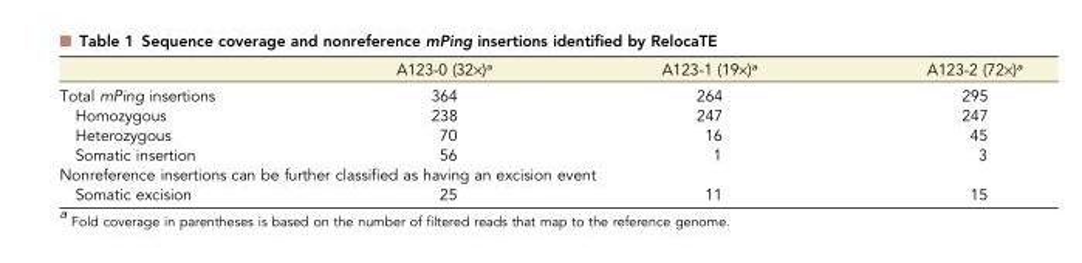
<table><thead><tr><td></td><td>A123-0 (32×)<sup>a</sup></td><td>A123-1 (19×)<sup>a</sup></td><td>A123-2 (72×)<sup>a</sup></td></tr></thead><tbody><tr><td>Total mPing insertions</td><td>364</td><td>264</td><td>295</td></tr><tr><td>Homozygous</td><td>238</td><td>247</td><td>247</td></tr><tr><td>Heterozygous</td><td>70</td><td>16</td><td>45</td></tr><tr><td>Somatic insertion</td><td>56</td><td>1</td><td>3</td></tr><tr><td colspan="4">Nonreference insertions can be further classified as having an excision event</td></tr><tr><td>Somatic excision</td><td>25</td><td>11</td><td>15</td></tr></tbody></table>